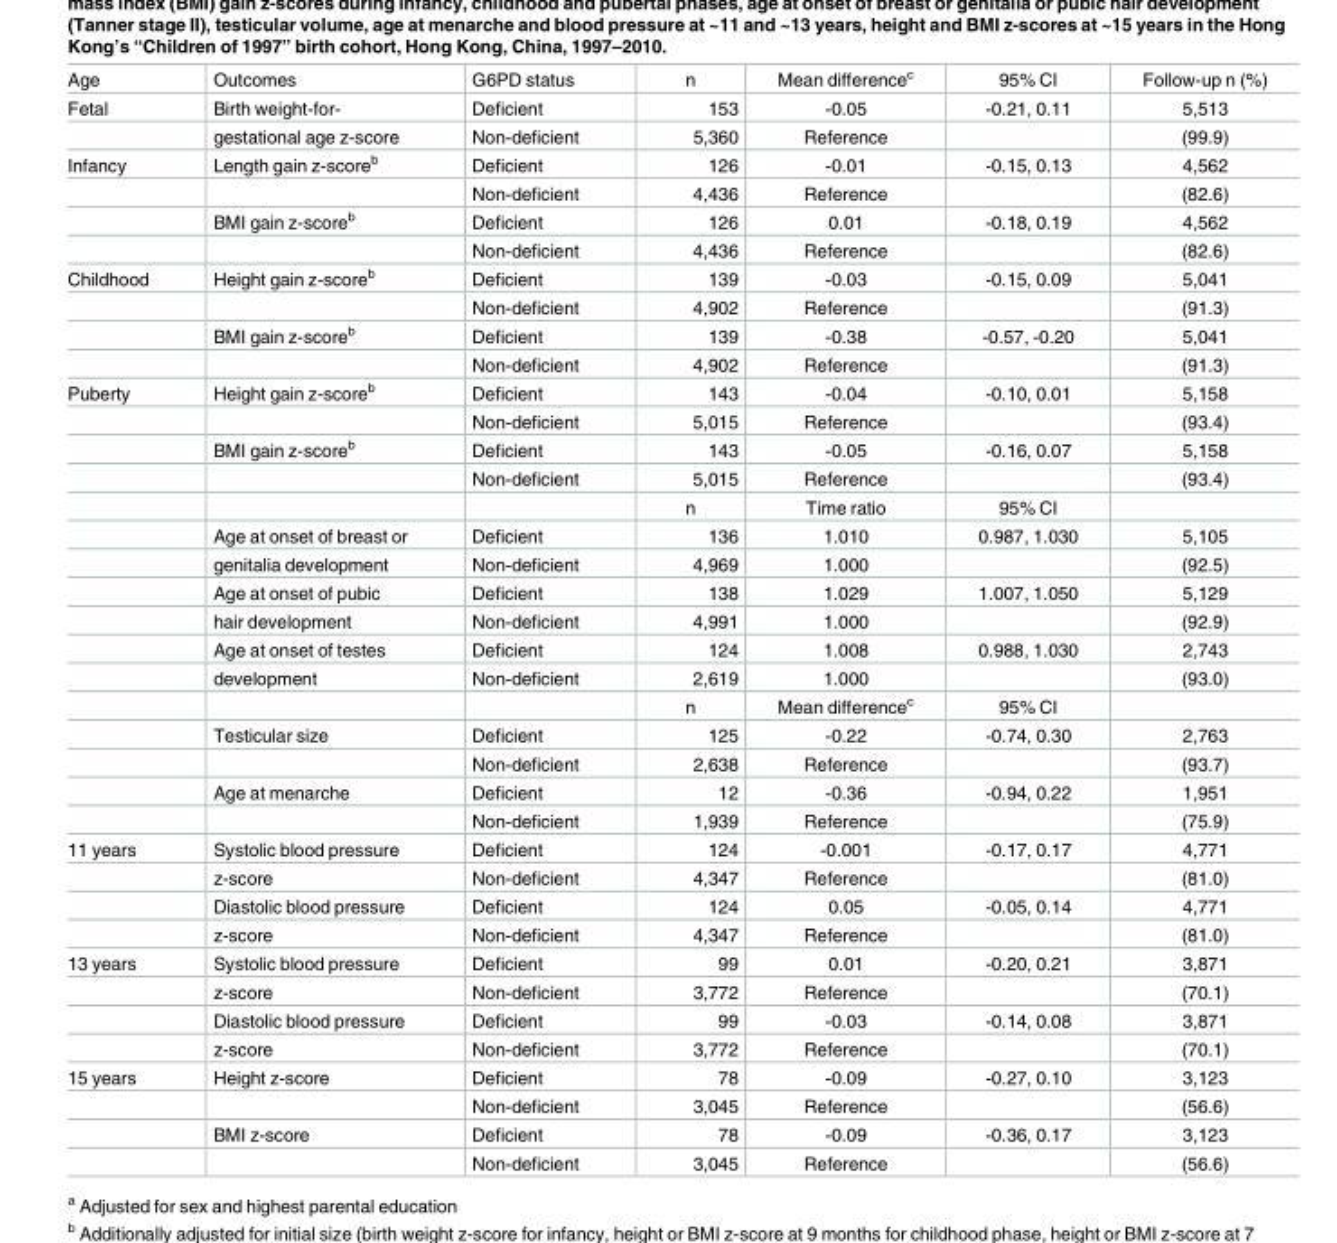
<table><tbody><tr><td>Age</td><td>Outcomes</td><td>G6PD status</td><td>n</td><td>Mean difference<sup>c</sup></td><td>95% CI</td><td>Follow-up n (%)</td></tr><tr><td rowspan="2">Fetal</td><td>Birth weight-for-</td><td>Deficient</td><td>153</td><td>-0.05</td><td>-0.21, 0.11</td><td>5,513</td></tr><tr><td>gestational age z-score</td><td>Non-deficient</td><td>5,360</td><td>Reference</td><td></td><td>(99.9)</td></tr><tr><td rowspan="4">Infancy</td><td>Length gain z-score<sup>b</sup></td><td>Deficient</td><td>126</td><td>-0.01</td><td>-0.15, 0.13</td><td>4,562</td></tr><tr><td></td><td>Non-deficient</td><td>4,436</td><td>Reference</td><td></td><td>(82.6)</td></tr><tr><td>BMI gain z-score<sup>b</sup></td><td>Deficient</td><td>126</td><td>0.01</td><td>-0.18, 0.19</td><td>4,562</td></tr><tr><td></td><td>Non-deficient</td><td>4,436</td><td>Reference</td><td></td><td>(82.6)</td></tr><tr><td rowspan="4">Childhood</td><td>Height gain z-score<sup>b</sup></td><td>Deficient</td><td>139</td><td>-0.03</td><td>-0.15, 0.09</td><td>5,041</td></tr><tr><td></td><td>Non-deficient</td><td>4,902</td><td>Reference</td><td></td><td>(91.3)</td></tr><tr><td>BMI gain z-score<sup>b</sup></td><td>Deficient</td><td>139</td><td>-0.38</td><td>-0.57, -0.20</td><td>5,041</td></tr><tr><td></td><td>Non-deficient</td><td>4,902</td><td>Reference</td><td></td><td>(91.3)</td></tr><tr><td rowspan="16">Puberty</td><td>Height gain z-score<sup>b</sup></td><td>Deficient</td><td>143</td><td>-0.04</td><td>-0.10, 0.01</td><td>5,158</td></tr><tr><td></td><td>Non-deficient</td><td>5,015</td><td>Reference</td><td></td><td>(93.4)</td></tr><tr><td>BMI gain z-score<sup>b</sup></td><td>Deficient</td><td>143</td><td>-0.05</td><td>-0.16, 0.07</td><td>5,158</td></tr><tr><td></td><td>Non-deficient</td><td>5,015</td><td>Reference</td><td></td><td>(93.4)</td></tr><tr><td></td><td></td><td>n</td><td>Time ratio</td><td>95% CI</td><td></td></tr><tr><td>Age at onset of breast or</td><td>Deficient</td><td>136</td><td>1.010</td><td>0.987, 1.030</td><td>5,105</td></tr><tr><td>genitalia development</td><td>Non-deficient</td><td>4,969</td><td>1.000</td><td></td><td>(92.5)</td></tr><tr><td>Age at onset of pubic</td><td>Deficient</td><td>138</td><td>1.029</td><td>1.007, 1.050</td><td>5,129</td></tr><tr><td>hair development</td><td>Non-deficient</td><td>4,991</td><td>1.000</td><td></td><td>(92.9)</td></tr><tr><td>Age at onset of testes</td><td>Deficient</td><td>124</td><td>1.008</td><td>0.988, 1.030</td><td>2,743</td></tr><tr><td>development</td><td>Non-deficient</td><td>2,619</td><td>1.000</td><td></td><td>(93.0)</td></tr><tr><td></td><td></td><td>n</td><td>Mean difference<sup>c</sup></td><td>95% CI</td><td></td></tr><tr><td>Testicular size</td><td>Deficient</td><td>125</td><td>-0.22</td><td>-0.74, 0.30</td><td>2,763</td></tr><tr><td></td><td>Non-deficient</td><td>2,638</td><td>Reference</td><td></td><td>(93.7)</td></tr><tr><td>Age at menarche</td><td>Deficient</td><td>12</td><td>-0.36</td><td>-0.94, 0.22</td><td>1,951</td></tr><tr><td></td><td>Non-deficient</td><td>1,939</td><td>Reference</td><td></td><td>(75.9)</td></tr><tr><td rowspan="4">11 years</td><td>Systolic blood pressure</td><td>Deficient</td><td>124</td><td>-0.001</td><td>-0.17, 0.17</td><td>4,771</td></tr><tr><td>z-score</td><td>Non-deficient</td><td>4,347</td><td>Reference</td><td></td><td>(81.0)</td></tr><tr><td>Diastolic blood pressure</td><td>Deficient</td><td>124</td><td>0.05</td><td>-0.05, 0.14</td><td>4,771</td></tr><tr><td>z-score</td><td>Non-deficient</td><td>4,347</td><td>Reference</td><td></td><td>(81.0)</td></tr><tr><td rowspan="4">13 years</td><td>Systolic blood pressure</td><td>Deficient</td><td>99</td><td>0.01</td><td>-0.20, 0.21</td><td>3,871</td></tr><tr><td>z-score</td><td>Non-deficient</td><td>3,772</td><td>Reference</td><td></td><td>(70.1)</td></tr><tr><td>Diastolic blood pressure</td><td>Deficient</td><td>99</td><td>-0.03</td><td>-0.14, 0.08</td><td>3,871</td></tr><tr><td>z-score</td><td>Non-deficient</td><td>3,772</td><td>Reference</td><td></td><td>(70.1)</td></tr><tr><td rowspan="4">15 years</td><td>Height z-score</td><td>Deficient</td><td>78</td><td>-0.09</td><td>-0.27, 0.10</td><td>3,123</td></tr><tr><td></td><td>Non-deficient</td><td>3,045</td><td>Reference</td><td></td><td>(56.6)</td></tr><tr><td>BMI z-score</td><td>Deficient</td><td>78</td><td>-0.09</td><td>-0.36, 0.17</td><td>3,123</td></tr><tr><td></td><td>Non-deficient</td><td>3,045</td><td>Reference</td><td></td><td>(56.6)</td></tr></tbody></table>